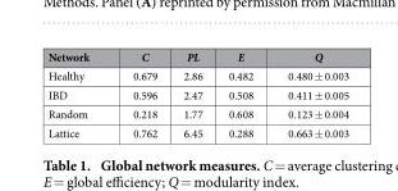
<table><thead><tr><td>Network</td><td>C</td><td>PL</td><td>E</td><td>Q</td></tr></thead><tbody><tr><td>Healthy</td><td>0.679</td><td>2.86</td><td>0.482</td><td>0.480 ± 0.003</td></tr><tr><td>IBD</td><td>0.596</td><td>2.47</td><td>0.508</td><td>0.411 ± 0.005</td></tr><tr><td>Random</td><td>0.218</td><td>1.77</td><td>0.608</td><td>0.123 ± 0.004</td></tr><tr><td>Lattice</td><td>0.762</td><td>6.45</td><td>0.288</td><td>0.663 ± 0.003</td></tr></tbody></table>